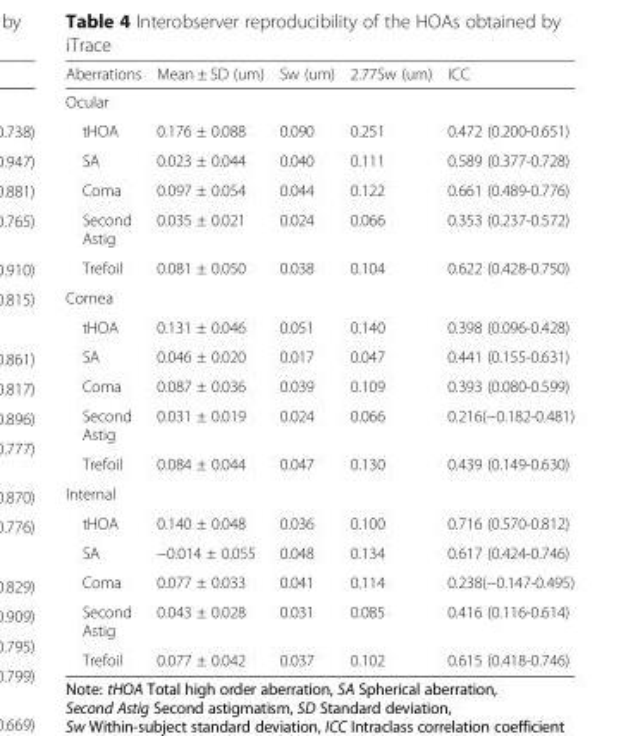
<table><thead><tr><td>Aberrations</td><td>Mean ± SD (um)</td><td>Sw (um)</td><td>2.77Sw (um)</td><td>ICC</td></tr></thead><tbody><tr><td colspan="5">Ocular</td></tr><tr><td>tHOA</td><td>0.176 ± 0.088</td><td>0.090</td><td>0.251</td><td>0.472 (0.200-0.651)</td></tr><tr><td>SA</td><td>0.023 ± 0.044</td><td>0.040</td><td>0.111</td><td>0.589 (0.377-0.728)</td></tr><tr><td>Coma</td><td>0.097 ± 0.054</td><td>0.044</td><td>0.122</td><td>0.661 (0.489-0.776)</td></tr><tr><td>Second Astig</td><td>0.035 ± 0.021</td><td>0.024</td><td>0.066</td><td>0.353 (0.237-0.572)</td></tr><tr><td>Trefoil</td><td>0.081 ± 0.050</td><td>0.038</td><td>0.104</td><td>0.622 (0.428-0.750)</td></tr><tr><td colspan="5">Cornea</td></tr><tr><td>tHOA</td><td>0.131 ± 0.046</td><td>0.051</td><td>0.140</td><td>0.398 (0.096-0.428)</td></tr><tr><td>SA</td><td>0.046 ± 0.020</td><td>0.017</td><td>0.047</td><td>0.441 (0.155-0.631)</td></tr><tr><td>Coma</td><td>0.087 ± 0.036</td><td>0.039</td><td>0.109</td><td>0.393 (0.080-0.599)</td></tr><tr><td>Second Astig</td><td>0.031 ± 0.019</td><td>0.024</td><td>0.066</td><td>0.216(−0.182-0.481)</td></tr><tr><td>Trefoil</td><td>0.084 ± 0.044</td><td>0.047</td><td>0.130</td><td>0.439 (0.149-0.630)</td></tr><tr><td colspan="5">Internal</td></tr><tr><td>tHOA</td><td>0.140 ± 0.048</td><td>0.036</td><td>0.100</td><td>0.716 (0.570-0.812)</td></tr><tr><td>SA</td><td>−0.014 ± 0.055</td><td>0.048</td><td>0.134</td><td>0.617 (0.424-0.746)</td></tr><tr><td>Coma</td><td>0.077 ± 0.033</td><td>0.041</td><td>0.114</td><td>0.238(−0.147-0.495)</td></tr><tr><td>Second Astig</td><td>0.043 ± 0.028</td><td>0.031</td><td>0.085</td><td>0.416 (0.116-0.614)</td></tr><tr><td>Trefoil</td><td>0.077 ± 0.042</td><td>0.037</td><td>0.102</td><td>0.615 (0.418-0.746)</td></tr></tbody></table>